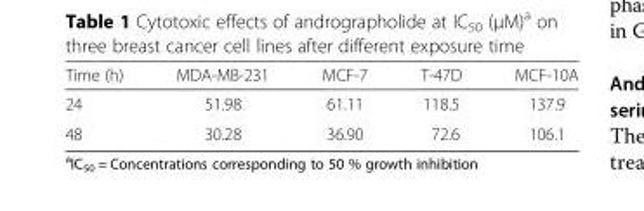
<table><thead><tr><td>Time (h)</td><td>MDA-MB-231</td><td>MCF-7</td><td>T-47D</td><td>MCF-10A</td></tr></thead><tbody><tr><td>24</td><td>51.98</td><td>61.11</td><td>118.5</td><td>137.9</td></tr><tr><td>48</td><td>30.28</td><td>36.90</td><td>72.6</td><td>106.1</td></tr></tbody></table>